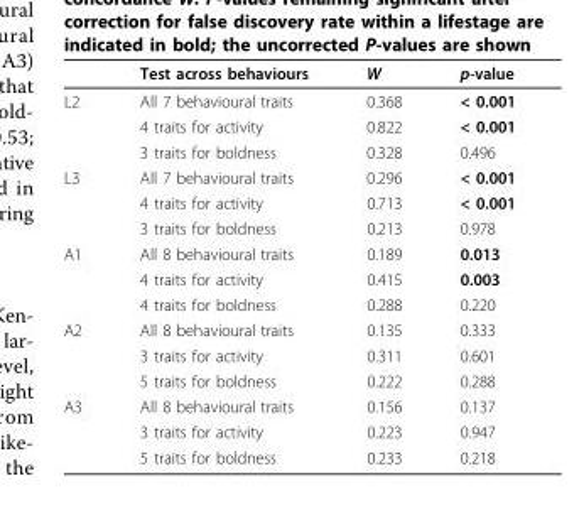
<table><thead><tr><td></td><td>Test across behaviours</td><td>W</td><td>p-value</td></tr></thead><tbody><tr><td rowspan="3">L2</td><td>All 7 behavioural traits</td><td>0.368</td><td>&lt; 0.001</td></tr><tr><td>4 traits for activity</td><td>0.822</td><td>&lt; 0.001</td></tr><tr><td>3 traits for boldness</td><td>0.328</td><td>0.496</td></tr><tr><td rowspan="3">L3</td><td>All 7 behavioural traits</td><td>0.296</td><td>&lt; 0.001</td></tr><tr><td>4 traits for activity</td><td>0.713</td><td>&lt; 0.001</td></tr><tr><td>3 traits for boldness</td><td>0.213</td><td>0.978</td></tr><tr><td rowspan="3">A1</td><td>All 8 behavioural traits</td><td>0.189</td><td>0.013</td></tr><tr><td>4 traits for activity</td><td>0.415</td><td>0.003</td></tr><tr><td>4 traits for boldness</td><td>0.288</td><td>0.220</td></tr><tr><td rowspan="3">A2</td><td>All 8 behavioural traits</td><td>0.135</td><td>0.333</td></tr><tr><td>3 traits for activity</td><td>0.311</td><td>0.601</td></tr><tr><td>5 traits for boldness</td><td>0.222</td><td>0.288</td></tr><tr><td rowspan="3">A3</td><td>All 8 behavioural traits</td><td>0.156</td><td>0.137</td></tr><tr><td>3 traits for activity</td><td>0.223</td><td>0.947</td></tr><tr><td>5 traits for boldness</td><td>0.233</td><td>0.218</td></tr></tbody></table>